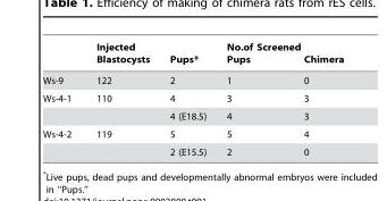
<table><thead><tr><td></td><td>Injected Blastocysts</td><td>Pups*</td><td>No.of Screened Pups</td><td>Chimera</td></tr></thead><tbody><tr><td>Ws-9</td><td>122</td><td>2</td><td>1</td><td>0</td></tr><tr><td rowspan="2">Ws-4-1</td><td>110</td><td>4</td><td>3</td><td>3</td></tr><tr><td></td><td>4 (E18.5)</td><td>4</td><td>3</td></tr><tr><td rowspan="2">Ws-4-2</td><td>119</td><td>5</td><td>5</td><td>4</td></tr><tr><td></td><td>2 (E15.5)</td><td>2</td><td>0</td></tr></tbody></table>